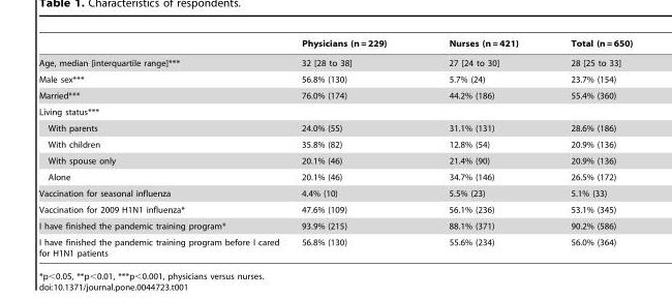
<table><thead><tr><td></td><td>Physicians (n = 229)</td><td>Nurses (n = 421)</td><td>Total (n = 650)</td></tr></thead><tbody><tr><td>Age, median [interquartile range]***</td><td>32 [28 to 38]</td><td>27 [24 to 30]</td><td>28 [25 to 33]</td></tr><tr><td>Male sex***</td><td>56.8% (130)</td><td>5.7% (24)</td><td>23.7% (154)</td></tr><tr><td>Married***</td><td>76.0% (174)</td><td>44.2% (186)</td><td>55.4% (360)</td></tr><tr><td colspan="4">Living status***</td></tr><tr><td>With parents</td><td>24.0% (55)</td><td>31.1% (131)</td><td>28.6% (186)</td></tr><tr><td>With children</td><td>35.8% (82)</td><td>12.8% (54)</td><td>20.9% (136)</td></tr><tr><td>With spouse only</td><td>20.1% (46)</td><td>21.4% (90)</td><td>20.9% (136)</td></tr><tr><td>Alone</td><td>20.1% (46)</td><td>34.7% (146)</td><td>26.5% (172)</td></tr><tr><td>Vaccination for seasonal influenza</td><td>4.4% (10)</td><td>5.5% (23)</td><td>5.1% (33)</td></tr><tr><td>Vaccination for 2009 H1N1 influenza*</td><td>47.6% (109)</td><td>56.1% (236)</td><td>53.1% (345)</td></tr><tr><td>I have finished the pandemic training program*</td><td>93.9% (215)</td><td>88.1% (371)</td><td>90.2% (586)</td></tr><tr><td>I have finished the pandemic training program before I cared for H1N1 patients</td><td>56.8% (130)</td><td>55.6% (234)</td><td>56.0% (364)</td></tr></tbody></table>